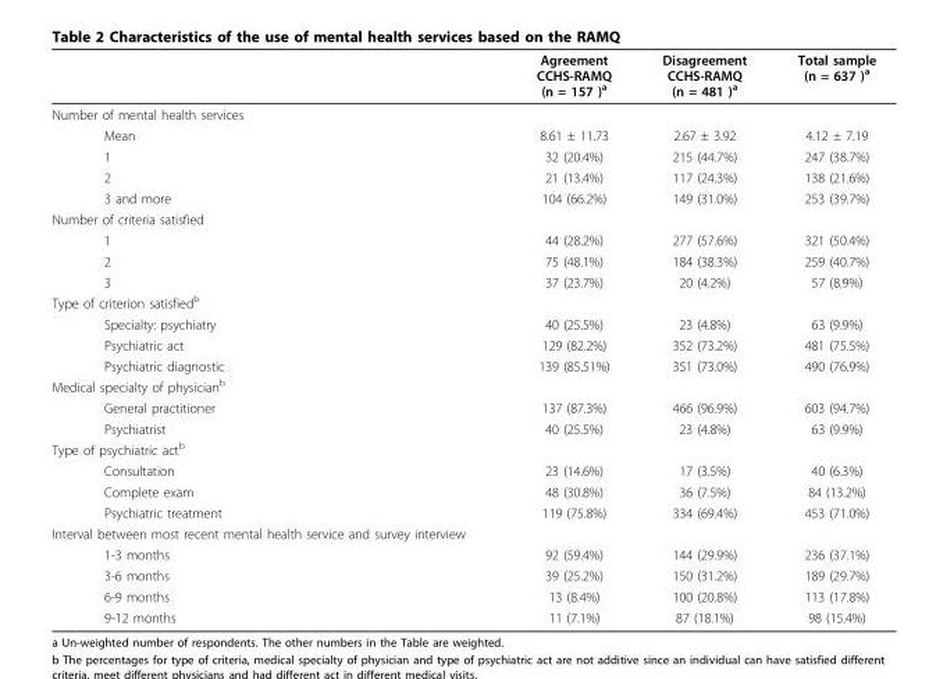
<table><thead><tr><td></td><td>Agreement CCHS-RAMQ (n = 157 )<sup>a</sup></td><td>Disagreement CCHS-RAMQ (n = 481 )<sup>a</sup></td><td>Total sample (n = 637 )<sup>a</sup></td></tr></thead><tbody><tr><td colspan="4">Number of mental health services</td></tr><tr><td>Mean</td><td>8.61 ± 11.73</td><td>2.67 ± 3.92</td><td>4.12 ± 7.19</td></tr><tr><td>1</td><td>32 (20.4%)</td><td>215 (44.7%)</td><td>247 (38.7%)</td></tr><tr><td>2</td><td>21 (13.4%)</td><td>117 (24.3%)</td><td>138 (21.6%)</td></tr><tr><td>3 and more</td><td>104 (66.2%)</td><td>149 (31.0%)</td><td>253 (39.7%)</td></tr><tr><td colspan="4">Number of criteria satisfied</td></tr><tr><td>1</td><td>44 (28.2%)</td><td>277 (57.6%)</td><td>321 (50.4%)</td></tr><tr><td>2</td><td>75 (48.1%)</td><td>184 (38.3%)</td><td>259 (40.7%)</td></tr><tr><td>3</td><td>37 (23.7%)</td><td>20 (4.2%)</td><td>57 (8.9%)</td></tr><tr><td colspan="4">Type of criterion satisfied<sup>b</sup></td></tr><tr><td>Specialty: psychiatry</td><td>40 (25.5%)</td><td>23 (4.8%)</td><td>63 (9.9%)</td></tr><tr><td>Psychiatric act</td><td>129 (82.2%)</td><td>352 (73.2%)</td><td>481 (75.5%)</td></tr><tr><td>Psychiatric diagnostic</td><td>139 (85.51%)</td><td>351 (73.0%)</td><td>490 (76.9%)</td></tr><tr><td colspan="4">Medical specialty of physician<sup>b</sup></td></tr><tr><td>General practitioner</td><td>137 (87.3%)</td><td>466 (96.9%)</td><td>603 (94.7%)</td></tr><tr><td>Psychiatrist</td><td>40 (25.5%)</td><td>23 (4.8%)</td><td>63 (9.9%)</td></tr><tr><td colspan="4">Type of psychiatric act<sup>b</sup></td></tr><tr><td>Consultation</td><td>23 (14.6%)</td><td>17 (3.5%)</td><td>40 (6.3%)</td></tr><tr><td>Complete exam</td><td>48 (30.8%)</td><td>36 (7.5%)</td><td>84 (13.2%)</td></tr><tr><td>Psychiatric treatment</td><td>119 (75.8%)</td><td>334 (69.4%)</td><td>453 (71.0%)</td></tr><tr><td colspan="4">Interval between most recent mental health service and survey interview</td></tr><tr><td>1-3 months</td><td>92 (59.4%)</td><td>144 (29.9%)</td><td>236 (37.1%)</td></tr><tr><td>3-6 months</td><td>39 (25.2%)</td><td>150 (31.2%)</td><td>189 (29.7%)</td></tr><tr><td>6-9 months</td><td>13 (8.4%)</td><td>100 (20.8%)</td><td>113 (17.8%)</td></tr><tr><td>9-12 months</td><td>11 (7.1%)</td><td>87 (18.1%)</td><td>98 (15.4%)</td></tr></tbody></table>